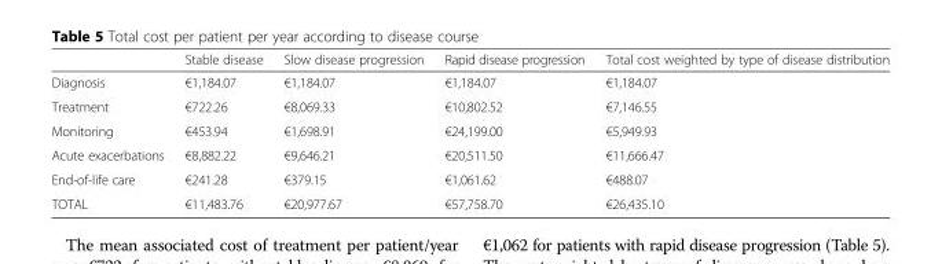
<table><thead><tr><td></td><td>Stable disease</td><td>Slow disease progression</td><td>Rapid disease progression</td><td>Total cost weighted by type of disease distribution</td></tr></thead><tbody><tr><td>Diagnosis</td><td>€1,184.07</td><td>€1,184.07</td><td>€1,184.07</td><td>€1,184.07</td></tr><tr><td>Treatment</td><td>€722.26</td><td>€8,069.33</td><td>€10,802.52</td><td>€7,146.55</td></tr><tr><td>Monitoring</td><td>€453.94</td><td>€1,698.91</td><td>€24,199.00</td><td>€5,949.93</td></tr><tr><td>Acute exacerbations</td><td>€8,882.22</td><td>€9,646.21</td><td>€20,511.50</td><td>€11,666.47</td></tr><tr><td>End-of-life care</td><td>€241.28</td><td>€379.15</td><td>€1,061.62</td><td>€488.07</td></tr><tr><td>TOTAL</td><td>€11,483.76</td><td>€20,977.67</td><td>€57,758.70</td><td>€26,435.10</td></tr></tbody></table>